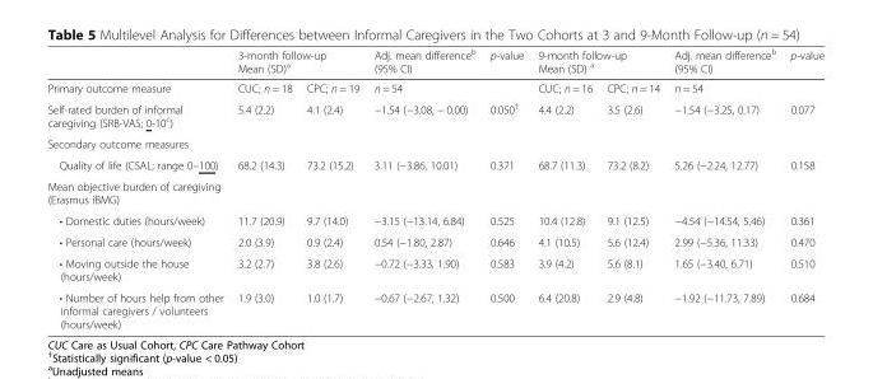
<table><thead><tr><td rowspan="2">Primary outcome measure</td><td colspan="2">3-month follow-up Mean (SD)<sup>a</sup></td><td rowspan="2">Adj. mean difference<sup>b</sup> (95% CI) n = 54</td><td rowspan="2">p-value</td><td colspan="2">9-month follow-up Mean (SD) <sup>a</sup></td><td rowspan="2">Adj. mean difference<sup>b</sup> (95% CI) n = 54</td><td rowspan="2">p-value</td></tr><tr><td>CUC; n = 18</td><td>CPC; n = 19</td><td>CUC; n = 16</td><td>CPC; n = 14</td></tr></thead><tbody><tr><td>Self-rated burden of informal caregiving (SRB-VAS; 0-10<sup>c</sup>)</td><td>5.4 (2.2)</td><td>4.1 (2.4)</td><td>−1.54 (−3.08, − 0.00)</td><td>0.050<sup>†</sup></td><td>4.4 (2.2)</td><td>3.5 (2.6)</td><td>−1.54 (−3.25, 0.17)</td><td>0.077</td></tr><tr><td colspan="9">Secondary outcome measures</td></tr><tr><td>Quality of life (CSAL; range 0–100)</td><td>68.2 (14.3)</td><td>73.2 (15.2)</td><td>3.11 (−3.86, 10.01)</td><td>0.371</td><td>68.7 (11.3)</td><td>73.2 (8.2)</td><td>5.26 (−2.24, 12.77)</td><td>0.158</td></tr><tr><td colspan="9">Mean objective burden of caregiving (Erasmus iBMG)</td></tr><tr><td>• Domestic duties (hours/week)</td><td>11.7 (20.9)</td><td>9.7 (14.0)</td><td>−3.15 (−13.14, 6.84)</td><td>0.525</td><td>10.4 (12.8)</td><td>9.1 (12.5)</td><td>−4.54 (−14.54, 5.46)</td><td>0.361</td></tr><tr><td>• Personal care (hours/week)</td><td>2.0 (3.9)</td><td>0.9 (2.4)</td><td>0.54 (−1.80, 2.87)</td><td>0.646</td><td>4.1 (10.5)</td><td>5.6 (12.4)</td><td>2.99 (−5.36, 11.33)</td><td>0.470</td></tr><tr><td>• Moving outside the house (hours/week)</td><td>3.2 (2.7)</td><td>3.8 (2.6)</td><td>−0.72 (−3.33, 1.90)</td><td>0.583</td><td>3.9 (4.2)</td><td>5.6 (8.1)</td><td>1.65 (−3.40, 6.71)</td><td>0.510</td></tr><tr><td>• Number of hours help from other informal caregivers / volunteers (hours/week)</td><td>1.9 (3.0)</td><td>1.0 (1.7)</td><td>−0.67 (−2.67, 1.32)</td><td>0.500</td><td>6.4 (20.8)</td><td>2.9 (4.8)</td><td>−1.92 (−11.73, 7.89)</td><td>0.684</td></tr></tbody></table>